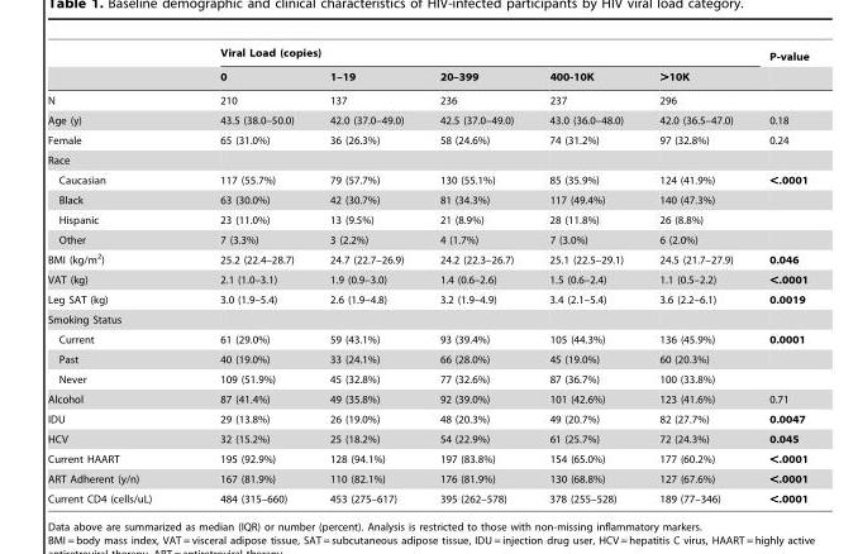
<table><thead><tr><td rowspan="2"></td><td colspan="5">Viral Load (copies)</td><td rowspan="2">P-value</td></tr><tr><td>0</td><td>1–19</td><td>20–399</td><td>400-10K</td><td>&gt;10K</td></tr></thead><tbody><tr><td>N</td><td>210</td><td>137</td><td>236</td><td>237</td><td>296</td><td></td></tr><tr><td>Age (y)</td><td>43.5 (38.0–50.0)</td><td>42.0 (37.0–49.0)</td><td>42.5 (37.0–49.0)</td><td>43.0 (36.0–48.0)</td><td>42.0 (36.5–47.0)</td><td>0.18</td></tr><tr><td>Female</td><td>65 (31.0%)</td><td>36 (26.3%)</td><td>58 (24.6%)</td><td>74 (31.2%)</td><td>97 (32.8%)</td><td>0.24</td></tr><tr><td colspan="7">Race</td></tr><tr><td>Caucasian</td><td>117 (55.7%)</td><td>79 (57.7%)</td><td>130 (55.1%)</td><td>85 (35.9%)</td><td>124 (41.9%)</td><td>&lt;.0001</td></tr><tr><td>Black</td><td>63 (30.0%)</td><td>42 (30.7%)</td><td>81 (34.3%)</td><td>117 (49.4%)</td><td>140 (47.3%)</td><td></td></tr><tr><td>Hispanic</td><td>23 (11.0%)</td><td>13 (9.5%)</td><td>21 (8.9%)</td><td>28 (11.8%)</td><td>26 (8.8%)</td><td></td></tr><tr><td>Other</td><td>7 (3.3%)</td><td>3 (2.2%)</td><td>4 (1.7%)</td><td>7 (3.0%)</td><td>6 (2.0%)</td><td></td></tr><tr><td>BMI (kg/m<sup>2</sup>)</td><td>25.2 (22.4–28.7)</td><td>24.7 (22.7–26.9)</td><td>24.2 (22.3–26.7)</td><td>25.1 (22.5–29.1)</td><td>24.5 (21.7–27.9)</td><td>0.046</td></tr><tr><td>VAT (kg)</td><td>2.1 (1.0–3.1)</td><td>1.9 (0.9–3.0)</td><td>1.4 (0.6–2.6)</td><td>1.5 (0.6–2.4)</td><td>1.1 (0.5–2.2)</td><td>&lt;.0001</td></tr><tr><td>Leg SAT (kg)</td><td>3.0 (1.9–5.4)</td><td>2.6 (1.9–4.8)</td><td>3.2 (1.9–4.9)</td><td>3.4 (2.1–5.4)</td><td>3.6 (2.2–6.1)</td><td>0.0019</td></tr><tr><td colspan="7">Smoking Status</td></tr><tr><td>Current</td><td>61 (29.0%)</td><td>59 (43.1%)</td><td>93 (39.4%)</td><td>105 (44.3%)</td><td>136 (45.9%)</td><td>0.0001</td></tr><tr><td>Past</td><td>40 (19.0%)</td><td>33 (24.1%)</td><td>66 (28.0%)</td><td>45 (19.0%)</td><td>60 (20.3%)</td><td></td></tr><tr><td>Never</td><td>109 (51.9%)</td><td>45 (32.8%)</td><td>77 (32.6%)</td><td>87 (36.7%)</td><td>100 (33.8%)</td><td></td></tr><tr><td>Alcohol</td><td>87 (41.4%)</td><td>49 (35.8%)</td><td>92 (39.0%)</td><td>101 (42.6%)</td><td>123 (41.6%)</td><td>0.71</td></tr><tr><td>IDU</td><td>29 (13.8%)</td><td>26 (19.0%)</td><td>48 (20.3%)</td><td>49 (20.7%)</td><td>82 (27.7%)</td><td>0.0047</td></tr><tr><td>HCV</td><td>32 (15.2%)</td><td>25 (18.2%)</td><td>54 (22.9%)</td><td>61 (25.7%)</td><td>72 (24.3%)</td><td>0.045</td></tr><tr><td>Current HAART</td><td>195 (92.9%)</td><td>128 (94.1%)</td><td>197 (83.8%)</td><td>154 (65.0%)</td><td>177 (60.2%)</td><td>&lt;.0001</td></tr><tr><td>ART Adherent (y/n)</td><td>167 (81.9%)</td><td>110 (82.1%)</td><td>176 (81.9%)</td><td>130 (68.8%)</td><td>127 (67.6%)</td><td>&lt;.0001</td></tr><tr><td>Current CD4 (cells/uL)</td><td>484 (315–660)</td><td>453 (275–617)</td><td>395 (262–578)</td><td>378 (255–528)</td><td>189 (77–346)</td><td>&lt;.0001</td></tr></tbody></table>